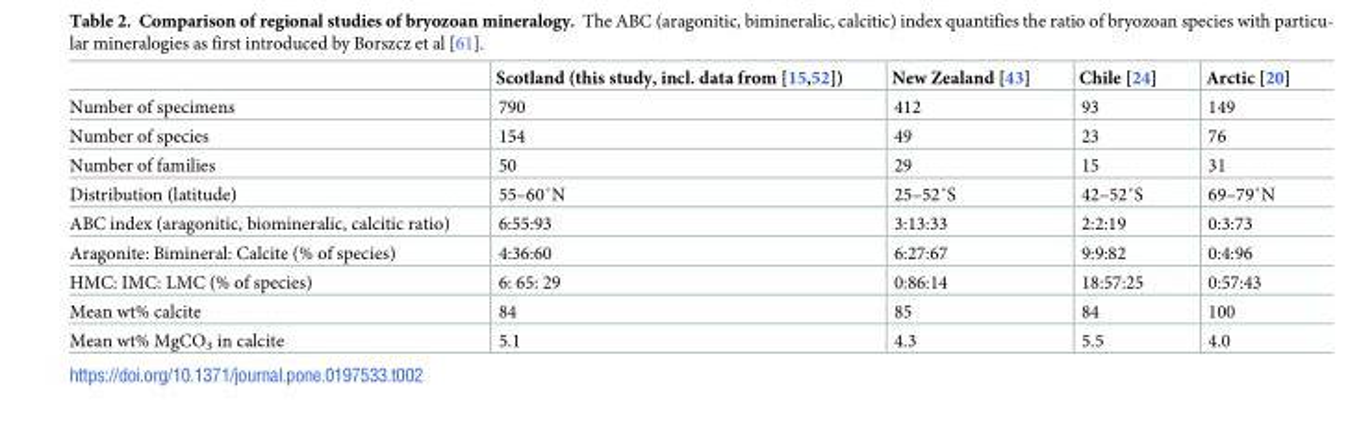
<table><thead><tr><td></td><td>Scotland (this study, incl. data from [15,52])</td><td>New Zealand [43]</td><td>Chile [24]</td><td>Arctic [20]</td></tr></thead><tbody><tr><td>Number of specimens</td><td>790</td><td>412</td><td>93</td><td>149</td></tr><tr><td>Number of species</td><td>154</td><td>49</td><td>23</td><td>76</td></tr><tr><td>Number of families</td><td>50</td><td>29</td><td>15</td><td>31</td></tr><tr><td>Distribution (latitude)</td><td>55–60˚N</td><td>25–52˚S</td><td>42–52˚S</td><td>69–79˚N</td></tr><tr><td>ABC index (aragonitic, biomineralic, calcitic ratio)</td><td>6:55:93</td><td>3:13:33</td><td>2:2:19</td><td>0:3:73</td></tr><tr><td>Aragonite: Bimineral: Calcite (% of species)</td><td>4:36:60</td><td>6:27:67</td><td>9:9:82</td><td>0:4:96</td></tr><tr><td>HMC: IMC: LMC (% of species)</td><td>6: 65: 29</td><td>0:86:14</td><td>18:57:25</td><td>0:57:43</td></tr><tr><td>Mean wt% calcite</td><td>84</td><td>85</td><td>84</td><td>100</td></tr><tr><td>Mean wt% MgCO<sub>3</sub> in calcite</td><td>5.1</td><td>4.3</td><td>5.5</td><td>4.0</td></tr></tbody></table>